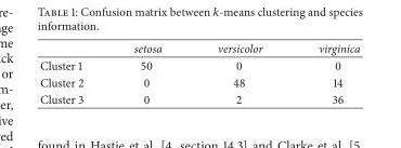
<table><thead><tr><td></td><td>setosa</td><td>versicolor</td><td>virginica</td></tr></thead><tbody><tr><td>Cluster 1</td><td>50</td><td>0</td><td>0</td></tr><tr><td>Cluster 2</td><td>0</td><td>48</td><td>14</td></tr><tr><td>Cluster 3</td><td>0</td><td>2</td><td>36</td></tr></tbody></table>